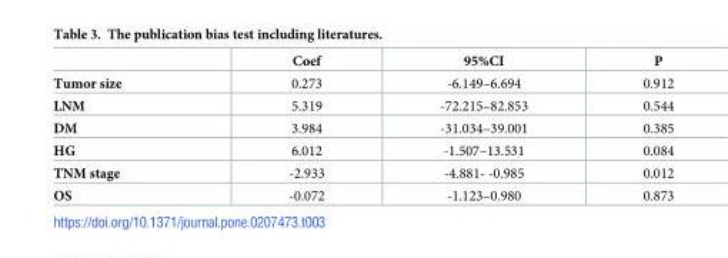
<table><thead><tr><td></td><td>Coef</td><td>95%CI</td><td>P</td></tr></thead><tbody><tr><td>Tumor size</td><td>0.273</td><td>-6.149–6.694</td><td>0.912</td></tr><tr><td>LNM</td><td>5.319</td><td>-72.215–82.853</td><td>0.544</td></tr><tr><td>DM</td><td>3.984</td><td>-31.034–39.001</td><td>0.385</td></tr><tr><td>HG</td><td>6.012</td><td>-1.507–13.531</td><td>0.084</td></tr><tr><td>TNM stage</td><td>-2.933</td><td>-4.881- -0.985</td><td>0.012</td></tr><tr><td>OS</td><td>-0.072</td><td>-1.123–0.980</td><td>0.873</td></tr></tbody></table>